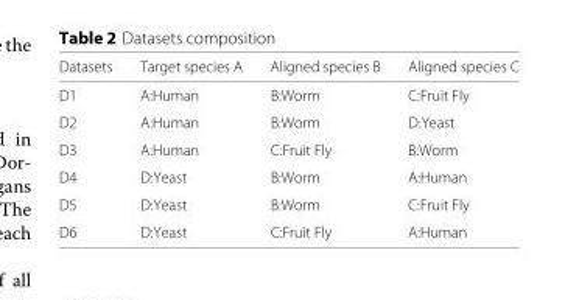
<table><thead><tr><td>Datasets</td><td>Target species A</td><td>Aligned species B</td><td>Aligned species C</td></tr></thead><tbody><tr><td>D1</td><td>A:Human</td><td>B:Worm</td><td>C:Fruit Fly</td></tr><tr><td>D2</td><td>A:Human</td><td>B:Worm</td><td>D:Yeast</td></tr><tr><td>D3</td><td>A:Human</td><td>C:Fruit Fly</td><td>B:Worm</td></tr><tr><td>D4</td><td>D:Yeast</td><td>B:Worm</td><td>A:Human</td></tr><tr><td>D5</td><td>D:Yeast</td><td>B:Worm</td><td>C:Fruit Fly</td></tr><tr><td>D6</td><td>D:Yeast</td><td>C:Fruit Fly</td><td>A:Human</td></tr></tbody></table>